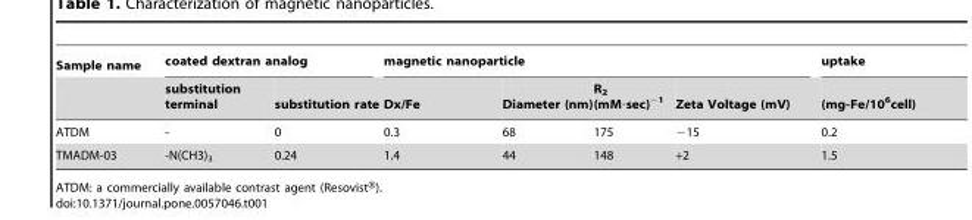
<table><thead><tr><td rowspan="2">Sample name</td><td colspan="2">coated dextran analog</td><td colspan="4">magnetic nanoparticle</td><td rowspan="2">uptake (mg-Fe/10<sup>6</sup>cell)</td></tr><tr><td>substitution terminal</td><td>substitution rate</td><td>Dx/Fe</td><td>Diameter (nm)</td><td>R<sub>2</sub> (mM·sec)<sup>−1</sup></td><td>Zeta Voltage (mV)</td></tr></thead><tbody><tr><td>ATDM</td><td>-</td><td>0</td><td>0.3</td><td>68</td><td>175</td><td>−15</td><td>0.2</td></tr><tr><td>TMADM-03</td><td>-N(CH3)<sub>3</sub></td><td>0.24</td><td>1.4</td><td>44</td><td>148</td><td>+2</td><td>1.5</td></tr></tbody></table>